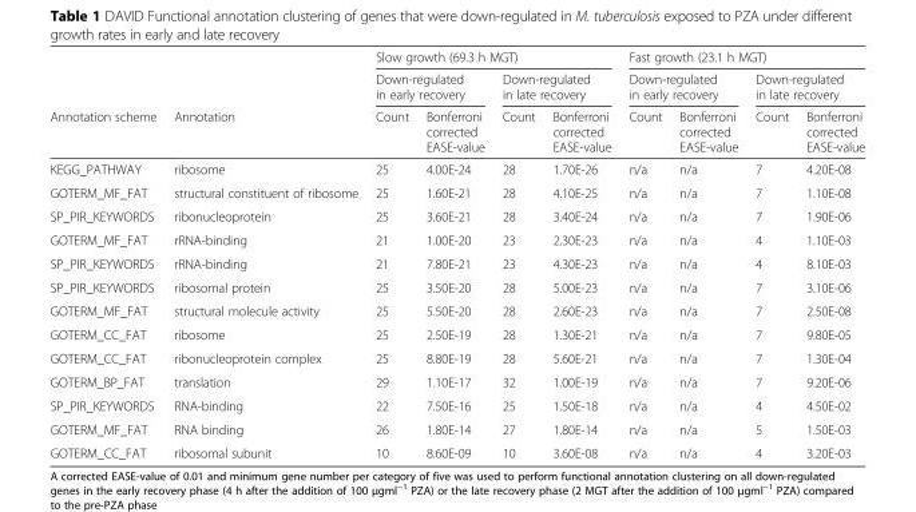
<table><thead><tr><td rowspan="3">Annotation scheme</td><td rowspan="3">Annotation</td><td colspan="4">Slow growth (69.3 h MGT)</td><td colspan="4">Fast growth (23.1 h MGT)</td></tr><tr><td colspan="2">Down-regulated in early recovery</td><td colspan="2">Down-regulated in late recovery</td><td colspan="2">Down-regulated in early recovery</td><td colspan="2">Down-regulated in late recovery</td></tr><tr><td>Count</td><td>Bonferroni corrected EASE-value</td><td>Count</td><td>Bonferroni corrected EASE-value</td><td>Count</td><td>Bonferroni corrected EASE-value</td><td>Count</td><td>Bonferroni corrected EASE-value</td></tr></thead><tbody><tr><td>KEGG_PATHWAY</td><td>ribosome</td><td>25</td><td>4.00E-24</td><td>28</td><td>1.70E-26</td><td>n/a</td><td>n/a</td><td>7</td><td>4.20E-08</td></tr><tr><td>GOTERM_MF_FAT</td><td>structural constituent of ribosome</td><td>25</td><td>1.60E-21</td><td>28</td><td>4.10E-25</td><td>n/a</td><td>n/a</td><td>7</td><td>1.10E-08</td></tr><tr><td>SP_PIR_KEYWORDS</td><td>ribonucleoprotein</td><td>25</td><td>3.60E-21</td><td>28</td><td>3.40E-24</td><td>n/a</td><td>n/a</td><td>7</td><td>1.90E-06</td></tr><tr><td>GOTERM_MF_FAT</td><td>rRNA-binding</td><td>21</td><td>1.00E-20</td><td>23</td><td>2.30E-23</td><td>n/a</td><td>n/a</td><td>4</td><td>1.10E-03</td></tr><tr><td>SP_PIR_KEYWORDS</td><td>rRNA-binding</td><td>21</td><td>7.80E-21</td><td>23</td><td>4.30E-23</td><td>n/a</td><td>n/a</td><td>4</td><td>8.10E-03</td></tr><tr><td>SP_PIR_KEYWORDS</td><td>ribosomal protein</td><td>25</td><td>3.50E-20</td><td>28</td><td>5.00E-23</td><td>n/a</td><td>n/a</td><td>7</td><td>3.10E-06</td></tr><tr><td>GOTERM_MF_FAT</td><td>structural molecule activity</td><td>25</td><td>5.50E-20</td><td>28</td><td>2.60E-23</td><td>n/a</td><td>n/a</td><td>7</td><td>2.50E-08</td></tr><tr><td>GOTERM_CC_FAT</td><td>ribosome</td><td>25</td><td>2.50E-19</td><td>28</td><td>1.30E-21</td><td>n/a</td><td>n/a</td><td>7</td><td>9.80E-05</td></tr><tr><td>GOTERM_CC_FAT</td><td>ribonucleoprotein complex</td><td>25</td><td>8.80E-19</td><td>28</td><td>5.60E-21</td><td>n/a</td><td>n/a</td><td>7</td><td>1.30E-04</td></tr><tr><td>GOTERM_BP_FAT</td><td>translation</td><td>29</td><td>1.10E-17</td><td>32</td><td>1.00E-19</td><td>n/a</td><td>n/a</td><td>7</td><td>9.20E-06</td></tr><tr><td>SP_PIR_KEYWORDS</td><td>RNA-binding</td><td>22</td><td>7.50E-16</td><td>25</td><td>1.50E-18</td><td>n/a</td><td>n/a</td><td>4</td><td>4.50E-02</td></tr><tr><td>GOTERM_MF_FAT</td><td>RNA binding</td><td>26</td><td>1.80E-14</td><td>27</td><td>1.80E-14</td><td>n/a</td><td>n/a</td><td>5</td><td>1.50E-03</td></tr><tr><td>GOTERM_CC_FAT</td><td>ribosomal subunit</td><td>10</td><td>8.60E-09</td><td>10</td><td>3.60E-08</td><td>n/a</td><td>n/a</td><td>4</td><td>3.20E-03</td></tr></tbody></table>